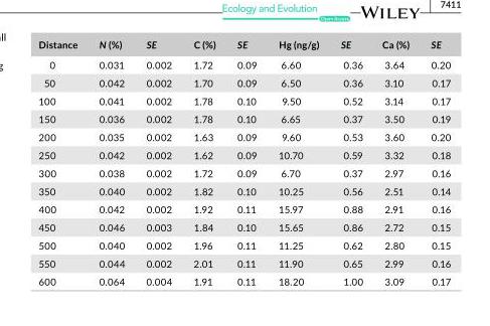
<table><thead><tr><td>Distance</td><td>N (%)</td><td>SE</td><td>C (%)</td><td>SE</td><td>Hg (ng/g)</td><td>SE</td><td>Ca (%)</td><td>SE</td></tr></thead><tbody><tr><td>0</td><td>0.031</td><td>0.002</td><td>1.72</td><td>0.09</td><td>6.60</td><td>0.36</td><td>3.64</td><td>0.20</td></tr><tr><td>50</td><td>0.042</td><td>0.002</td><td>1.70</td><td>0.09</td><td>6.50</td><td>0.36</td><td>3.10</td><td>0.17</td></tr><tr><td>100</td><td>0.041</td><td>0.002</td><td>1.78</td><td>0.10</td><td>9.50</td><td>0.52</td><td>3.14</td><td>0.17</td></tr><tr><td>150</td><td>0.036</td><td>0.002</td><td>1.78</td><td>0.10</td><td>6.65</td><td>0.37</td><td>3.50</td><td>0.19</td></tr><tr><td>200</td><td>0.035</td><td>0.002</td><td>1.63</td><td>0.09</td><td>9.60</td><td>0.53</td><td>3.60</td><td>0.20</td></tr><tr><td>250</td><td>0.042</td><td>0.002</td><td>1.62</td><td>0.09</td><td>10.70</td><td>0.59</td><td>3.32</td><td>0.18</td></tr><tr><td>300</td><td>0.038</td><td>0.002</td><td>1.72</td><td>0.09</td><td>6.70</td><td>0.37</td><td>2.97</td><td>0.16</td></tr><tr><td>350</td><td>0.040</td><td>0.002</td><td>1.82</td><td>0.10</td><td>10.25</td><td>0.56</td><td>2.51</td><td>0.14</td></tr><tr><td>400</td><td>0.042</td><td>0.002</td><td>1.92</td><td>0.11</td><td>15.97</td><td>0.88</td><td>2.91</td><td>0.16</td></tr><tr><td>450</td><td>0.046</td><td>0.003</td><td>1.84</td><td>0.10</td><td>15.65</td><td>0.86</td><td>2.72</td><td>0.15</td></tr><tr><td>500</td><td>0.040</td><td>0.002</td><td>1.96</td><td>0.11</td><td>11.25</td><td>0.62</td><td>2.80</td><td>0.15</td></tr><tr><td>550</td><td>0.044</td><td>0.002</td><td>2.01</td><td>0.11</td><td>11.90</td><td>0.65</td><td>2.99</td><td>0.16</td></tr><tr><td>600</td><td>0.064</td><td>0.004</td><td>1.91</td><td>0.11</td><td>18.20</td><td>1.00</td><td>3.09</td><td>0.17</td></tr></tbody></table>